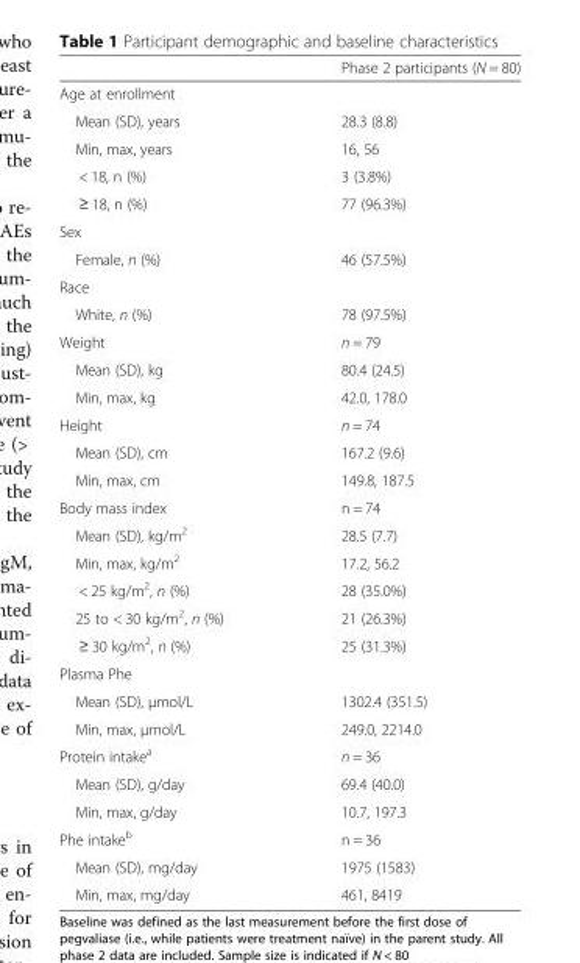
<table><thead><tr><td></td><td>Phase 2 participants (N = 80)</td></tr></thead><tbody><tr><td colspan="2">Age at enrollment</td></tr><tr><td>Mean (SD), years</td><td>28.3 (8.8)</td></tr><tr><td>Min, max, years</td><td>16, 56</td></tr><tr><td>&lt; 18, n (%)</td><td>3 (3.8%)</td></tr><tr><td>≥ 18, n (%)</td><td>77 (96.3%)</td></tr><tr><td colspan="2">Sex</td></tr><tr><td>Female, n (%)</td><td>46 (57.5%)</td></tr><tr><td colspan="2">Race</td></tr><tr><td>White, n (%)</td><td>78 (97.5%)</td></tr><tr><td>Weight</td><td>n = 79</td></tr><tr><td>Mean (SD), kg</td><td>80.4 (24.5)</td></tr><tr><td>Min, max, kg</td><td>42.0, 178.0</td></tr><tr><td>Height</td><td>n = 74</td></tr><tr><td>Mean (SD), cm</td><td>167.2 (9.6)</td></tr><tr><td>Min, max, cm</td><td>149.8, 187.5</td></tr><tr><td>Body mass index</td><td>n = 74</td></tr><tr><td>Mean (SD), kg/m<sup>2</sup></td><td>28.5 (7.7)</td></tr><tr><td>Min, max, kg/m<sup>2</sup></td><td>17.2, 56.2</td></tr><tr><td>&lt; 25 kg/m<sup>2</sup>, n (%)</td><td>28 (35.0%)</td></tr><tr><td>25 to &lt; 30 kg/m<sup>2</sup>, n (%)</td><td>21 (26.3%)</td></tr><tr><td>≥ 30 kg/m<sup>2</sup>, n (%)</td><td>25 (31.3%)</td></tr><tr><td colspan="2">Plasma Phe</td></tr><tr><td>Mean (SD), μmol/L</td><td>1302.4 (351.5)</td></tr><tr><td>Min, max, μmol/L</td><td>249.0, 2214.0</td></tr><tr><td>Protein intake<sup>a</sup></td><td>n = 36</td></tr><tr><td>Mean (SD), g/day</td><td>69.4 (40.0)</td></tr><tr><td>Min, max, g/day</td><td>10.7, 197.3</td></tr><tr><td>Phe intake<sup>b</sup></td><td>n = 36</td></tr><tr><td>Mean (SD), mg/day</td><td>1975 (1583)</td></tr><tr><td>Min, max, mg/day</td><td>461, 8419</td></tr></tbody></table>